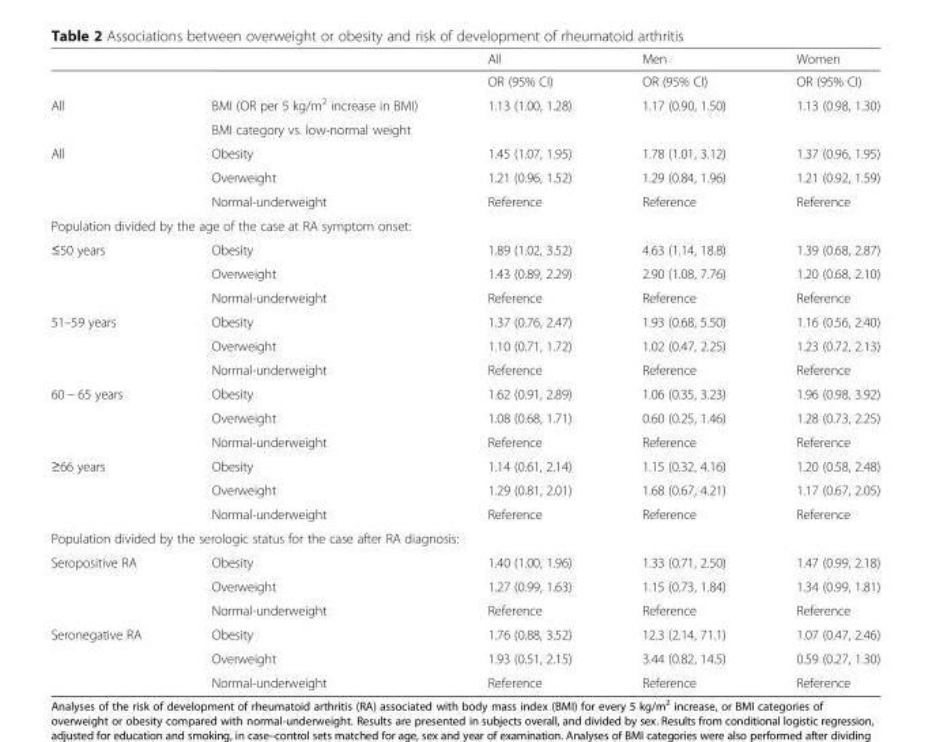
<table><thead><tr><td></td><td></td><td>All</td><td>Men</td><td>Women</td></tr></thead><tbody><tr><td></td><td></td><td>OR (95% CI)</td><td>OR (95% CI)</td><td>OR (95% CI)</td></tr><tr><td rowspan="2">All</td><td>BMI (OR per 5 kg/m<sup>2</sup> increase in BMI)</td><td>1.13 (1.00, 1.28)</td><td>1.17 (0.90, 1.50)</td><td>1.13 (0.98, 1.30)</td></tr><tr><td>BMI category vs. low-normal weight</td><td></td><td></td><td></td></tr><tr><td rowspan="3">All</td><td>Obesity</td><td>1.45 (1.07, 1.95)</td><td>1.78 (1.01, 3.12)</td><td>1.37 (0.96, 1.95)</td></tr><tr><td>Overweight</td><td>1.21 (0.96, 1.52)</td><td>1.29 (0.84, 1.96)</td><td>1.21 (0.92, 1.59)</td></tr><tr><td>Normal-underweight</td><td>Reference</td><td>Reference</td><td>Reference</td></tr><tr><td colspan="5">Population divided by the age of the case at RA symptom onset:</td></tr><tr><td rowspan="3">≤50 years</td><td>Obesity</td><td>1.89 (1.02, 3.52)</td><td>4.63 (1.14, 18.8)</td><td>1.39 (0.68, 2.87)</td></tr><tr><td>Overweight</td><td>1.43 (0.89, 2.29)</td><td>2.90 (1.08, 7.76)</td><td>1.20 (0.68, 2.10)</td></tr><tr><td>Normal-underweight</td><td>Reference</td><td>Reference</td><td>Reference</td></tr><tr><td rowspan="3">51–59 years</td><td>Obesity</td><td>1.37 (0.76, 2.47)</td><td>1.93 (0.68, 5.50)</td><td>1.16 (0.56, 2.40)</td></tr><tr><td>Overweight</td><td>1.10 (0.71, 1.72)</td><td>1.02 (0.47, 2.25)</td><td>1.23 (0.72, 2.13)</td></tr><tr><td>Normal-underweight</td><td>Reference</td><td>Reference</td><td>Reference</td></tr><tr><td rowspan="3">60 − 65 years</td><td>Obesity</td><td>1.62 (0.91, 2.89)</td><td>1.06 (0.35, 3.23)</td><td>1.96 (0.98, 3.92)</td></tr><tr><td>Overweight</td><td>1.08 (0.68, 1.71)</td><td>0.60 (0.25, 1.46)</td><td>1.28 (0.73, 2.25)</td></tr><tr><td>Normal-underweight</td><td>Reference</td><td>Reference</td><td>Reference</td></tr><tr><td rowspan="3">≥66 years</td><td>Obesity</td><td>1.14 (0.61, 2.14)</td><td>1.15 (0.32, 4.16)</td><td>1.20 (0.58, 2.48)</td></tr><tr><td>Overweight</td><td>1.29 (0.81, 2.01)</td><td>1.68 (0.67, 4.21)</td><td>1.17 (0.67, 2.05)</td></tr><tr><td>Normal-underweight</td><td>Reference</td><td>Reference</td><td>Reference</td></tr><tr><td colspan="5">Population divided by the serologic status for the case after RA diagnosis:</td></tr><tr><td rowspan="3">Seropositive RA</td><td>Obesity</td><td>1.40 (1.00, 1.96)</td><td>1.33 (0.71, 2.50)</td><td>1.47 (0.99, 2.18)</td></tr><tr><td>Overweight</td><td>1.27 (0.99, 1.63)</td><td>1.15 (0.73, 1.84)</td><td>1.34 (0.99, 1.81)</td></tr><tr><td>Normal-underweight</td><td>Reference</td><td>Reference</td><td>Reference</td></tr><tr><td rowspan="3">Seronegative RA</td><td>Obesity</td><td>1.76 (0.88, 3.52)</td><td>12.3 (2.14, 71.1)</td><td>1.07 (0.47, 2.46)</td></tr><tr><td>Overweight</td><td>1.93 (0.51, 2.15)</td><td>3.44 (0.82, 14.5)</td><td>0.59 (0.27, 1.30)</td></tr><tr><td>Normal-underweight</td><td>Reference</td><td>Reference</td><td>Reference</td></tr></tbody></table>